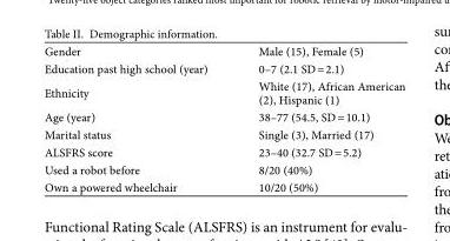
<table><tbody><tr><td>Gender</td><td>Male (15), Female (5)</td></tr><tr><td>Education past high school (year)</td><td>0–7 (2.1 SD = 2.1)</td></tr><tr><td>Ethnicity</td><td>White (17), African American (2), Hispanic (1)</td></tr><tr><td>Age (year)</td><td>38–77 (54.5, SD = 10.1)</td></tr><tr><td>Marital status</td><td>Single (3), Married (17)</td></tr><tr><td>ALSFRS score</td><td>23–40 (32.7 SD = 5.2)</td></tr><tr><td>Used a robot before</td><td>8/20 (40%)</td></tr><tr><td>Own a powered wheelchair</td><td>10/20 (50%)</td></tr></tbody></table>